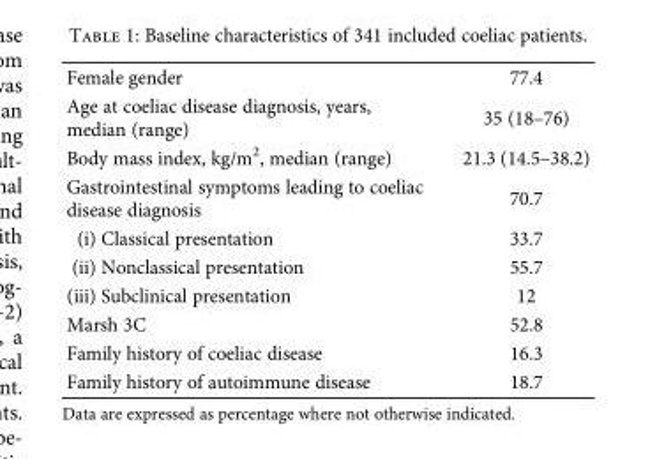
<table><tbody><tr><td>Female gender</td><td>77.4</td></tr><tr><td>Age at coeliac disease diagnosis, years, median (range)</td><td>35 (18–76)</td></tr><tr><td>Body mass index, kg/m<sup>2</sup>, median (range)</td><td>21.3 (14.5–38.2)</td></tr><tr><td>Gastrointestinal symptoms leading to coeliac disease diagnosis</td><td>70.7</td></tr><tr><td>(i) Classical presentation</td><td>33.7</td></tr><tr><td>(ii) Nonclassical presentation</td><td>55.7</td></tr><tr><td>(iii) Subclinical presentation</td><td>12</td></tr><tr><td>Marsh 3C</td><td>52.8</td></tr><tr><td>Family history of coeliac disease</td><td>16.3</td></tr><tr><td>Family history of autoimmune disease</td><td>18.7</td></tr></tbody></table>